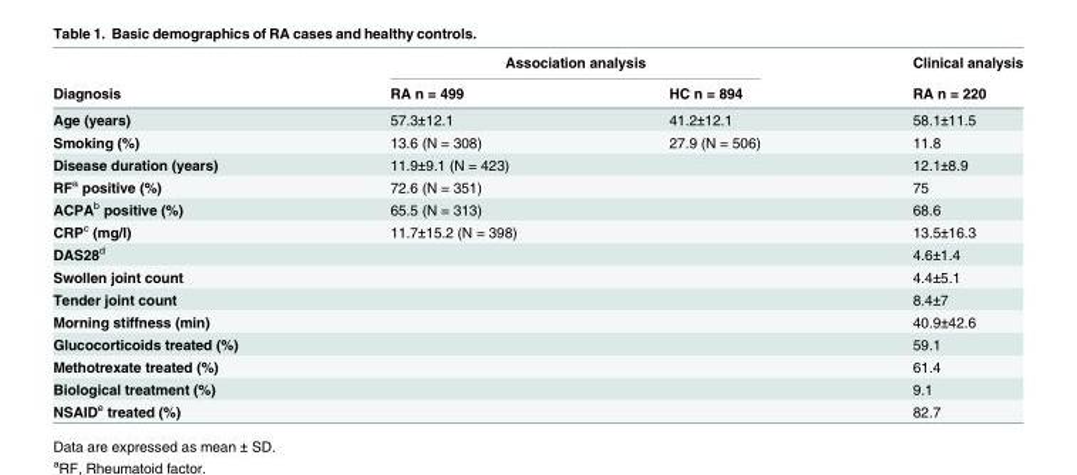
<table><thead><tr><td rowspan="2">Diagnosis</td><td colspan="2">Association analysis</td><td rowspan="2">Clinical analysis RA n = 220</td></tr><tr><td>RA n = 499</td><td>HC n = 894</td></tr></thead><tbody><tr><td>Age (years)</td><td>57.3±12.1</td><td>41.2±12.1</td><td>58.1±11.5</td></tr><tr><td>Smoking (%)</td><td>13.6 (N = 308)</td><td>27.9 (N = 506)</td><td>11.8</td></tr><tr><td>Disease duration (years)</td><td>11.9±9.1 (N = 423)</td><td></td><td>12.1±8.9</td></tr><tr><td>RF<sup>a</sup> positive (%)</td><td>72.6 (N = 351)</td><td></td><td>75</td></tr><tr><td>ACPA<sup>b</sup> positive (%)</td><td>65.5 (N = 313)</td><td></td><td>68.6</td></tr><tr><td>CRP<sup>c</sup> (mg/l)</td><td>11.7±15.2 (N = 398)</td><td></td><td>13.5±16.3</td></tr><tr><td>DAS28<sup>d</sup></td><td></td><td></td><td>4.6±1.4</td></tr><tr><td>Swollen joint count</td><td></td><td></td><td>4.4±5.1</td></tr><tr><td>Tender joint count</td><td></td><td></td><td>8.4±7</td></tr><tr><td>Morning stiffness (min)</td><td></td><td></td><td>40.9±42.6</td></tr><tr><td>Glucocorticoids treated (%)</td><td></td><td></td><td>59.1</td></tr><tr><td>Methotrexate treated (%)</td><td></td><td></td><td>61.4</td></tr><tr><td>Biological treatment (%)</td><td></td><td></td><td>9.1</td></tr><tr><td>NSAID<sup>e</sup> treated (%)</td><td></td><td></td><td>82.7</td></tr></tbody></table>